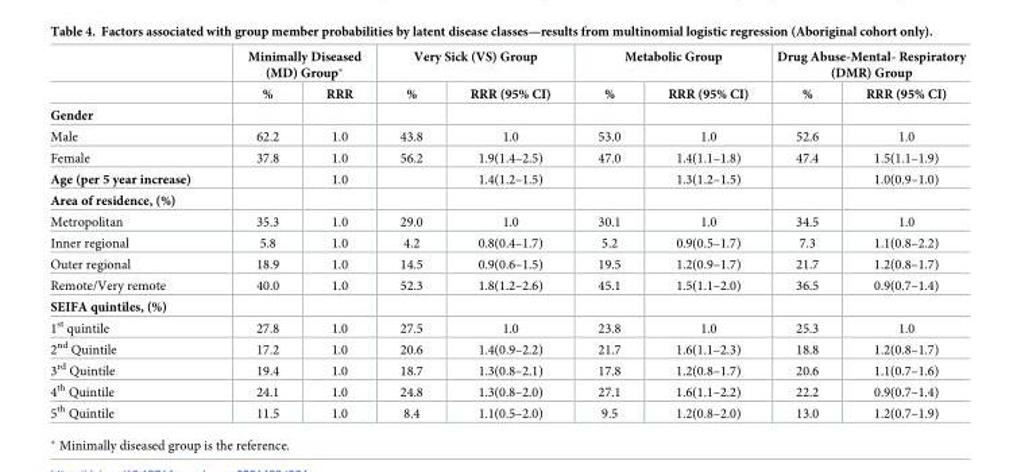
<table><thead><tr><td rowspan="2"></td><td colspan="2">Minimally Diseased (MD) Group*</td><td colspan="2">Very Sick (VS) Group</td><td colspan="2">Metabolic Group</td><td colspan="2">Drug Abuse-Mental- Respiratory (DMR) Group</td></tr><tr><td>%</td><td>RRR</td><td>%</td><td>RRR (95% CI)</td><td>%</td><td>RRR (95% CI)</td><td>%</td><td>RRR (95% CI)</td></tr></thead><tbody><tr><td colspan="9">Gender</td></tr><tr><td>Male</td><td>62.2</td><td>1.0</td><td>43.8</td><td>1.0</td><td>53.0</td><td>1.0</td><td>52.6</td><td>1.0</td></tr><tr><td>Female</td><td>37.8</td><td>1.0</td><td>56.2</td><td>1.9(1.4–2.5)</td><td>47.0</td><td>1.4(1.1–1.8)</td><td>47.4</td><td>1.5(1.1–1.9)</td></tr><tr><td>Age (per 5 year increase)</td><td></td><td>1.0</td><td></td><td>1.4(1.2–1.5)</td><td></td><td>1.3(1.2–1.5)</td><td></td><td>1.0(0.9–1.0)</td></tr><tr><td colspan="9">Area of residence, (%)</td></tr><tr><td>Metropolitan</td><td>35.3</td><td>1.0</td><td>29.0</td><td>1.0</td><td>30.1</td><td>1.0</td><td>34.5</td><td>1.0</td></tr><tr><td>Inner regional</td><td>5.8</td><td>1.0</td><td>4.2</td><td>0.8(0.4–1.7)</td><td>5.2</td><td>0.9(0.5–1.7)</td><td>7.3</td><td>1.1(0.8–2.2)</td></tr><tr><td>Outer regional</td><td>18.9</td><td>1.0</td><td>14.5</td><td>0.9(0.6–1.5)</td><td>19.5</td><td>1.2(0.9–1.7)</td><td>21.7</td><td>1.2(0.8–1.7)</td></tr><tr><td>Remote/Very remote</td><td>40.0</td><td>1.0</td><td>52.3</td><td>1.8(1.2–2.6)</td><td>45.1</td><td>1.5(1.1–2.0)</td><td>36.5</td><td>0.9(0.7–1.4)</td></tr><tr><td colspan="9">SEIFA quintiles, (%)</td></tr><tr><td>1<sup>st</sup> quintile</td><td>27.8</td><td>1.0</td><td>27.5</td><td>1.0</td><td>23.8</td><td>1.0</td><td>25.3</td><td>1.0</td></tr><tr><td>2<sup>nd</sup> Quintile</td><td>17.2</td><td>1.0</td><td>20.6</td><td>1.4(0.9–2.2)</td><td>21.7</td><td>1.6(1.1–2.3)</td><td>18.8</td><td>1.2(0.8–1.7)</td></tr><tr><td>3<sup>rd</sup> Quintile</td><td>19.4</td><td>1.0</td><td>18.7</td><td>1.3(0.8–2.1)</td><td>17.8</td><td>1.2(0.8–1.7)</td><td>20.6</td><td>1.1(0.7–1.6)</td></tr><tr><td>4<sup>th</sup> Quintile</td><td>24.1</td><td>1.0</td><td>24.8</td><td>1.3(0.8–2.0)</td><td>27.1</td><td>1.6(1.1–2.2)</td><td>22.2</td><td>0.9(0.7–1.4)</td></tr><tr><td>5<sup>th</sup> Quintile</td><td>11.5</td><td>1.0</td><td>8.4</td><td>1.1(0.5–2.0)</td><td>9.5</td><td>1.2(0.8–2.0)</td><td>13.0</td><td>1.2(0.7–1.9)</td></tr></tbody></table>